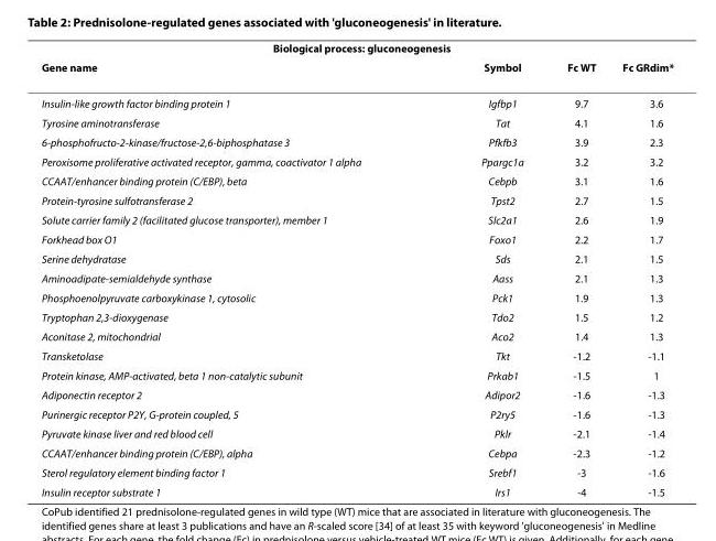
<table><thead><tr><td colspan="4">Biological process: gluconeogenesis</td></tr><tr><td>Gene name</td><td>Symbol</td><td>Fc WT</td><td>Fc GR<sup>dim</sup>*</td></tr></thead><tbody><tr><td>Insulin-like growth factor binding protein 1</td><td>Igfbp1</td><td>9.7</td><td>3.6</td></tr><tr><td>Tyrosine aminotransferase</td><td>Tat</td><td>4.1</td><td>1.6</td></tr><tr><td>6-phosphofructo-2-kinase/fructose-2,6-biphosphatase 3</td><td>Pfkfb3</td><td>3.9</td><td>2.3</td></tr><tr><td>Peroxisome proliferative activated receptor, gamma, coactivator 1 alpha</td><td>Ppargc1a</td><td>3.2</td><td>3.2</td></tr><tr><td>CCAAT/enhancer binding protein (C/EBP), beta</td><td>Cebpb</td><td>3.1</td><td>1.6</td></tr><tr><td>Protein-tyrosine sulfotransferase 2</td><td>Tpst2</td><td>2.7</td><td>1.5</td></tr><tr><td>Solute carrier family 2 (facilitated glucose transporter), member 1</td><td>Slc2a1</td><td>2.6</td><td>1.9</td></tr><tr><td>Forkhead box O1</td><td>Foxo1</td><td>2.2</td><td>1.7</td></tr><tr><td>Serine dehydratase</td><td>Sds</td><td>2.1</td><td>1.5</td></tr><tr><td>Aminoadipate-semialdehyde synthase</td><td>Aass</td><td>2.1</td><td>1.3</td></tr><tr><td>Phosphoenolpyruvate carboxykinase 1, cytosolic</td><td>Pck1</td><td>1.9</td><td>1.3</td></tr><tr><td>Tryptophan 2,3-dioxygenase</td><td>Tdo2</td><td>1.5</td><td>1.2</td></tr><tr><td>Aconitase 2, mitochondrial</td><td>Aco2</td><td>1.4</td><td>1.3</td></tr><tr><td>Transketolase</td><td>Tkt</td><td>-1.2</td><td>-1.1</td></tr><tr><td>Protein kinase, AMP-activated, beta 1 non-catalytic subunit</td><td>Prkab1</td><td>-1.5</td><td>1</td></tr><tr><td>Adiponectin receptor 2</td><td>Adipor2</td><td>-1.6</td><td>-1.3</td></tr><tr><td>Purinergic receptor P2Y, G-protein coupled, 5</td><td>P2ry5</td><td>-1.6</td><td>-1.3</td></tr><tr><td>Pyruvate kinase liver and red blood cell</td><td>Pklr</td><td>-2.1</td><td>-1.4</td></tr><tr><td>CCAAT/enhancer binding protein (C/EBP), alpha</td><td>Cebpa</td><td>-2.3</td><td>-1.2</td></tr><tr><td>Sterol regulatory element binding factor 1</td><td>Srebf1</td><td>-3</td><td>-1.6</td></tr><tr><td>Insulin receptor substrate 1</td><td>Irs1</td><td>-4</td><td>-1.5</td></tr></tbody></table>